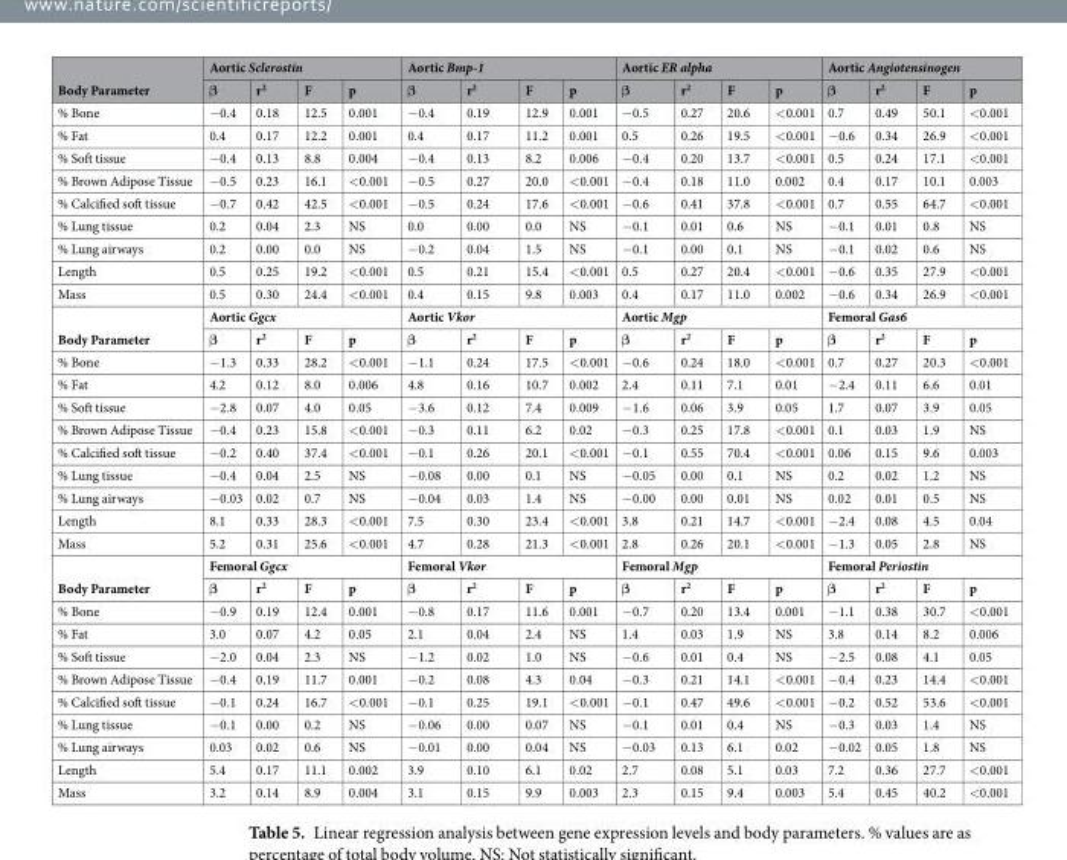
<table><thead><tr><td rowspan="2">Body Parameter</td><td colspan="4">Aortic Sclerostin</td><td colspan="4">Aortic Bmp-1</td><td colspan="4">Aortic ER alpha</td><td colspan="4">Aortic Angiotensinogen</td></tr><tr><td>β</td><td>r<sup>2</sup></td><td>F</td><td>p</td><td>β</td><td>r<sup>2</sup></td><td>F</td><td>p</td><td>β</td><td>r<sup>2</sup></td><td>F</td><td>p</td><td>β</td><td>r<sup>2</sup></td><td>F</td><td>p</td></tr></thead><tbody><tr><td>% Bone</td><td>−0.4</td><td>0.18</td><td>12.5</td><td>0.001</td><td>−0.4</td><td>0.19</td><td>12.9</td><td>0.001</td><td>−0.5</td><td>0.27</td><td>20.6</td><td>&lt;0.001</td><td>0.7</td><td>0.49</td><td>50.1</td><td>&lt;0.001</td></tr><tr><td>% Fat</td><td>0.4</td><td>0.17</td><td>12.2</td><td>0.001</td><td>0.4</td><td>0.17</td><td>11.2</td><td>0.001</td><td>0.5</td><td>0.26</td><td>19.5</td><td>&lt;0.001</td><td>−0.6</td><td>0.34</td><td>26.9</td><td>&lt;0.001</td></tr><tr><td>% Soft tissue</td><td>−0.4</td><td>0.13</td><td>8.8</td><td>0.004</td><td>−0.4</td><td>0.13</td><td>8.2</td><td>0.006</td><td>−0.4</td><td>0.20</td><td>13.7</td><td>&lt;0.001</td><td>0.5</td><td>0.24</td><td>17.1</td><td>&lt;0.001</td></tr><tr><td>% Brown Adipose Tissue</td><td>−0.5</td><td>0.23</td><td>16.1</td><td>&lt;0.001</td><td>−0.5</td><td>0.27</td><td>20.0</td><td>&lt;0.001</td><td>−0.4</td><td>0.18</td><td>11.0</td><td>0.002</td><td>0.4</td><td>0.17</td><td>10.1</td><td>0.003</td></tr><tr><td>% Calcified soft tissue</td><td>−0.7</td><td>0.42</td><td>42.5</td><td>&lt;0.001</td><td>−0.5</td><td>0.24</td><td>17.6</td><td>&lt;0.001</td><td>−0.6</td><td>0.41</td><td>37.8</td><td>&lt;0.001</td><td>0.7</td><td>0.55</td><td>64.7</td><td>&lt;0.001</td></tr><tr><td>% Lung tissue</td><td>0.2</td><td>0.04</td><td>2.3</td><td>NS</td><td>0.0</td><td>0.00</td><td>0.0</td><td>NS</td><td>−0.1</td><td>0.01</td><td>0.6</td><td>NS</td><td>−0.1</td><td>0.01</td><td>0.8</td><td>NS</td></tr><tr><td>% Lung airways</td><td>0.2</td><td>0.00</td><td>0.0</td><td>NS</td><td>−0.2</td><td>0.04</td><td>1.5</td><td>NS</td><td>−0.1</td><td>0.00</td><td>0.1</td><td>NS</td><td>−0.1</td><td>0.02</td><td>0.6</td><td>NS</td></tr><tr><td>Length</td><td>0.5</td><td>0.25</td><td>19.2</td><td>&lt;0.001</td><td>0.5</td><td>0.21</td><td>15.4</td><td>&lt;0.001</td><td>0.5</td><td>0.27</td><td>20.4</td><td>&lt;0.001</td><td>−0.6</td><td>0.35</td><td>27.9</td><td>&lt;0.001</td></tr><tr><td>Mass</td><td>0.5</td><td>0.30</td><td>24.4</td><td>&lt;0.001</td><td>0.4</td><td>0.15</td><td>9.8</td><td>0.003</td><td>0.4</td><td>0.17</td><td>11.0</td><td>0.002</td><td>−0.6</td><td>0.34</td><td>26.9</td><td>&lt;0.001</td></tr><tr><td rowspan="2">Body Parameter</td><td colspan="4">Aortic Ggcx</td><td colspan="4">Aortic Vkor</td><td colspan="4">Aortic Mgp</td><td colspan="4">Femoral Gas6</td></tr><tr><td>β</td><td>r<sup>2</sup></td><td>F</td><td>p</td><td>β</td><td>r<sup>2</sup></td><td>F</td><td>p</td><td>β</td><td>r<sup>2</sup></td><td>F</td><td>p</td><td>β</td><td>r<sup>2</sup></td><td>F</td><td>p</td></tr><tr><td>% Bone</td><td>−1.3</td><td>0.33</td><td>28.2</td><td>&lt;0.001</td><td>−1.1</td><td>0.24</td><td>17.5</td><td>&lt;0.001</td><td>−0.6</td><td>0.24</td><td>18.0</td><td>&lt;0.001</td><td>0.7</td><td>0.27</td><td>20.3</td><td>&lt;0.001</td></tr><tr><td>% Fat</td><td>4.2</td><td>0.12</td><td>8.0</td><td>0.006</td><td>4.8</td><td>0.16</td><td>10.7</td><td>0.002</td><td>2.4</td><td>0.11</td><td>7.1</td><td>0.01</td><td>−2.4</td><td>0.11</td><td>6.6</td><td>0.01</td></tr><tr><td>% Soft tissue</td><td>−2.8</td><td>0.07</td><td>4.0</td><td>0.05</td><td>−3.6</td><td>0.12</td><td>7.4</td><td>0.009</td><td>−1.6</td><td>0.06</td><td>3.9</td><td>0.05</td><td>1.7</td><td>0.07</td><td>3.9</td><td>0.05</td></tr><tr><td>% Brown Adipose Tissue</td><td>−0.4</td><td>0.23</td><td>15.8</td><td>&lt;0.001</td><td>−0.3</td><td>0.11</td><td>6.2</td><td>0.02</td><td>−0.3</td><td>0.25</td><td>17.8</td><td>&lt;0.001</td><td>0.1</td><td>0.03</td><td>1.9</td><td>NS</td></tr><tr><td>% Calcified soft tissue</td><td>−0.2</td><td>0.40</td><td>37.4</td><td>&lt;0.001</td><td>−0.1</td><td>0.26</td><td>20.1</td><td>&lt;0.001</td><td>−0.1</td><td>0.55</td><td>70.4</td><td>&lt;0.001</td><td>0.06</td><td>0.15</td><td>9.6</td><td>0.003</td></tr><tr><td>% Lung tissue</td><td>−0.4</td><td>0.04</td><td>2.5</td><td>NS</td><td>−0.08</td><td>0.00</td><td>0.1</td><td>NS</td><td>−0.05</td><td>0.00</td><td>0.1</td><td>NS</td><td>0.2</td><td>0.02</td><td>1.2</td><td>NS</td></tr><tr><td>% Lung airways</td><td>−0.03</td><td>0.02</td><td>0.7</td><td>NS</td><td>−0.04</td><td>0.03</td><td>1.4</td><td>NS</td><td>−0.00</td><td>0.00</td><td>0.01</td><td>NS</td><td>0.02</td><td>0.01</td><td>0.5</td><td>NS</td></tr><tr><td>Length</td><td>8.1</td><td>0.33</td><td>28.3</td><td>&lt;0.001</td><td>7.5</td><td>0.30</td><td>23.4</td><td>&lt;0.001</td><td>3.8</td><td>0.21</td><td>14.7</td><td>&lt;0.001</td><td>−2.4</td><td>0.08</td><td>4.5</td><td>0.04</td></tr><tr><td>Mass</td><td>5.2</td><td>0.31</td><td>25.6</td><td>&lt;0.001</td><td>4.7</td><td>0.28</td><td>21.3</td><td>&lt;0.001</td><td>2.8</td><td>0.26</td><td>20.1</td><td>&lt;0.001</td><td>−1.3</td><td>0.05</td><td>2.8</td><td>NS</td></tr><tr><td rowspan="2">Body Parameter</td><td colspan="4">Femoral Ggcx</td><td colspan="4">Femoral Vkor</td><td colspan="4">Femoral Mgp</td><td colspan="4">Femoral Periostin</td></tr><tr><td>β</td><td>r<sup>2</sup></td><td>F</td><td>p</td><td>β</td><td>r<sup>2</sup></td><td>F</td><td>p</td><td>β</td><td>r<sup>2</sup></td><td>F</td><td>p</td><td>β</td><td>r<sup>2</sup></td><td>F</td><td>p</td></tr><tr><td>% Bone</td><td>−0.9</td><td>0.19</td><td>12.4</td><td>0.001</td><td>−0.8</td><td>0.17</td><td>11.6</td><td>0.001</td><td>−0.7</td><td>0.20</td><td>13.4</td><td>0.001</td><td>−1.1</td><td>0.38</td><td>30.7</td><td>&lt;0.001</td></tr><tr><td>% Fat</td><td>3.0</td><td>0.07</td><td>4.2</td><td>0.05</td><td>2.1</td><td>0.04</td><td>2.4</td><td>NS</td><td>1.4</td><td>0.03</td><td>1.9</td><td>NS</td><td>3.8</td><td>0.14</td><td>8.2</td><td>0.006</td></tr><tr><td>% Soft tissue</td><td>−2.0</td><td>0.04</td><td>2.3</td><td>NS</td><td>−1.2</td><td>0.02</td><td>1.0</td><td>NS</td><td>−0.6</td><td>0.01</td><td>0.4</td><td>NS</td><td>−2.5</td><td>0.08</td><td>4.1</td><td>0.05</td></tr><tr><td>% Brown Adipose Tissue</td><td>−0.4</td><td>0.19</td><td>11.7</td><td>0.001</td><td>−0.2</td><td>0.08</td><td>4.3</td><td>0.04</td><td>−0.3</td><td>0.21</td><td>14.1</td><td>&lt;0.001</td><td>−0.4</td><td>0.23</td><td>14.4</td><td>&lt;0.001</td></tr><tr><td>% Calcified soft tissue</td><td>−0.1</td><td>0.24</td><td>16.7</td><td>&lt;0.001</td><td>−0.1</td><td>0.25</td><td>19.1</td><td>&lt;0.001</td><td>−0.1</td><td>0.47</td><td>49.6</td><td>&lt;0.001</td><td>−0.2</td><td>0.52</td><td>53.6</td><td>&lt;0.001</td></tr><tr><td>% Lung tissue</td><td>−0.1</td><td>0.00</td><td>0.2</td><td>NS</td><td>−0.06</td><td>0.00</td><td>0.07</td><td>NS</td><td>−0.1</td><td>0.01</td><td>0.4</td><td>NS</td><td>−0.3</td><td>0.03</td><td>1.4</td><td>NS</td></tr><tr><td>% Lung airways</td><td>0.03</td><td>0.02</td><td>0.6</td><td>NS</td><td>−0.01</td><td>0.00</td><td>0.04</td><td>NS</td><td>−0.03</td><td>0.13</td><td>6.1</td><td>0.02</td><td>−0.02</td><td>0.05</td><td>1.8</td><td>NS</td></tr><tr><td>Length</td><td>5.4</td><td>0.17</td><td>11.1</td><td>0.002</td><td>3.9</td><td>0.10</td><td>6.1</td><td>0.02</td><td>2.7</td><td>0.08</td><td>5.1</td><td>0.03</td><td>7.2</td><td>0.36</td><td>27.7</td><td>&lt;0.001</td></tr><tr><td>Mass</td><td>3.2</td><td>0.14</td><td>8.9</td><td>0.004</td><td>3.1</td><td>0.15</td><td>9.9</td><td>0.003</td><td>2.3</td><td>0.15</td><td>9.4</td><td>0.003</td><td>5.4</td><td>0.45</td><td>40.2</td><td>&lt;0.001</td></tr></tbody></table>